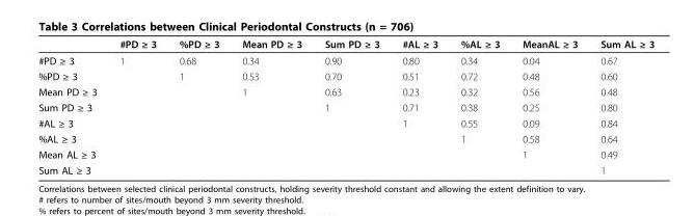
<table><thead><tr><td></td><td>#PD ≥ 3</td><td>%PD ≥ 3</td><td>Mean PD ≥ 3</td><td>Sum PD ≥ 3</td><td>#AL ≥ 3</td><td>%AL ≥ 3</td><td>MeanAL ≥ 3</td><td>Sum AL ≥ 3</td></tr></thead><tbody><tr><td>#PD ≥ 3</td><td>1</td><td>0.68</td><td>0.34</td><td>0.90</td><td>0.80</td><td>0.34</td><td>0.04</td><td>0.67</td></tr><tr><td>%PD ≥ 3</td><td></td><td>1</td><td>0.53</td><td>0.70</td><td>0.51</td><td>0.72</td><td>0.48</td><td>0.60</td></tr><tr><td>Mean PD ≥ 3</td><td></td><td></td><td>1</td><td>0.63</td><td>0.23</td><td>0.32</td><td>0.56</td><td>0.48</td></tr><tr><td>Sum PD ≥ 3</td><td></td><td></td><td></td><td>1</td><td>0.71</td><td>0.38</td><td>0.25</td><td>0.80</td></tr><tr><td>#AL ≥ 3</td><td></td><td></td><td></td><td></td><td>1</td><td>0.55</td><td>0.09</td><td>0.84</td></tr><tr><td>%AL ≥ 3</td><td></td><td></td><td></td><td></td><td></td><td>1</td><td>0.58</td><td>0.64</td></tr><tr><td>Mean AL ≥ 3</td><td></td><td></td><td></td><td></td><td></td><td></td><td>1</td><td>0.49</td></tr><tr><td>Sum AL ≥ 3</td><td></td><td></td><td></td><td></td><td></td><td></td><td></td><td>1</td></tr></tbody></table>